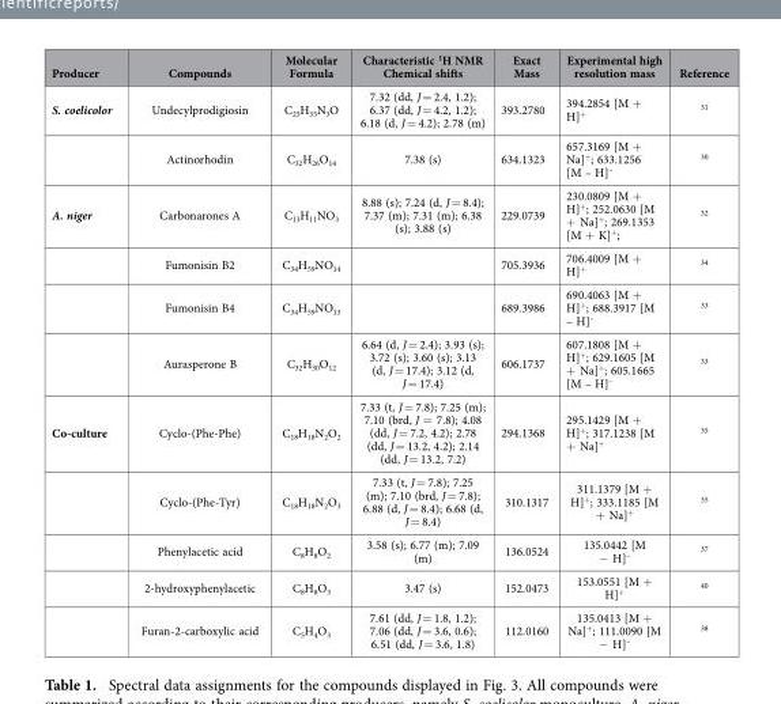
<table><thead><tr><td>Producer</td><td>Compounds</td><td>Molecular Formula</td><td>Characteristic <sup>1</sup>H NMR Chemical shifts</td><td>Exact Mass</td><td>Experimental high resolution mass</td><td>Reference</td></tr></thead><tbody><tr><td rowspan="2">S. coelicolor</td><td>Undecylprodigiosin</td><td>C<sub>25</sub>H<sub>35</sub>N<sub>3</sub>O</td><td>7.32 (dd, J = 2.4, 1.2); 6.37 (dd, J = 4.2, 1.2); 6.18 (d, J = 4.2); 2.78 (m)</td><td>393.2780</td><td>394.2854 [M + H]<sup>+</sup></td><td>31</td></tr><tr><td>Actinorhodin</td><td>C<sub>32</sub>H<sub>26</sub>O<sub>14</sub></td><td>7.38 (s)</td><td>634.1323</td><td>657.3169 [M + Na]<sup>+</sup>; 633.1256 [M – H]<sup>–</sup></td><td>30</td></tr><tr><td rowspan="4">A. niger</td><td>Carbonarones A</td><td>C<sub>13</sub>H<sub>11</sub>NO<sub>3</sub></td><td>8.88 (s); 7.24 (d, J = 8.4); 7.37 (m); 7.31 (m); 6.38 (s); 3.88 (s)</td><td>229.0739</td><td>230.0809 [M + H]<sup>+</sup>; 252.0630 [M + Na]<sup>+</sup>; 269.1353 [M + K]<sup>+</sup>;</td><td>32</td></tr><tr><td>Fumonisin B2</td><td>C<sub>34</sub>H<sub>59</sub>NO<sub>14</sub></td><td></td><td>705.3936</td><td>706.4009 [M + H]<sup>+</sup></td><td>34</td></tr><tr><td>Fumonisin B4</td><td>C<sub>34</sub>H<sub>59</sub>NO<sub>13</sub></td><td></td><td>689.3986</td><td>690.4063 [M + H]<sup>+</sup>; 688.3917 [M – H]<sup>–</sup></td><td>33</td></tr><tr><td>Aurasperone B</td><td>C<sub>32</sub>H<sub>30</sub>O<sub>12</sub></td><td>6.64 (d, J = 2.4); 3.93 (s); 3.72 (s); 3.60 (s); 3.13 (d, J = 17.4); 3.12 (d, J = 17.4)</td><td>606.1737</td><td>607.1808 [M + H]<sup>+</sup>; 629.1605 [M + Na]<sup>+</sup>; 605.1665 [M – H]<sup>–</sup></td><td>33</td></tr><tr><td rowspan="5">Co-culture</td><td>Cyclo-(Phe-Phe)</td><td>C<sub>18</sub>H<sub>18</sub>N<sub>2</sub>O<sub>2</sub></td><td>7.33 (t, J = 7.8); 7.25 (m); 7.10 (brd, J = 7.8); 4.08 (dd, J = 7.2, 4.2); 2.78 (dd, J = 13.2, 4.2); 2.14 (dd, J = 13.2, 7.2)</td><td>294.1368</td><td>295.1429 [M + H]<sup>+</sup>; 317.1238 [M + Na]<sup>+</sup></td><td>35</td></tr><tr><td>Cyclo-(Phe-Tyr)</td><td>C<sub>18</sub>H<sub>18</sub>N<sub>2</sub>O<sub>3</sub></td><td>7.33 (t, J = 7.8); 7.25 (m); 7.10 (brd, J = 7.8); 6.88 (d, J = 8.4); 6.68 (d, J = 8.4)</td><td>310.1317</td><td>311.1379 [M + H]<sup>+</sup>; 333.1185 [M + Na]<sup>+</sup></td><td>35</td></tr><tr><td>Phenylacetic acid</td><td>C<sub>8</sub>H<sub>8</sub>O<sub>2</sub></td><td>3.58 (s); 6.77 (m); 7.09 (m)</td><td>136.0524</td><td>135.0442 [M − H]<sup>–</sup></td><td>37</td></tr><tr><td>2-hydroxyphenylacetic</td><td>C<sub>8</sub>H<sub>8</sub>O<sub>3</sub></td><td>3.47 (s)</td><td>152.0473</td><td>153.0551 [M + H]<sup>+</sup></td><td>40</td></tr><tr><td>Furan-2-carboxylic acid</td><td>C<sub>5</sub>H<sub>4</sub>O<sub>3</sub></td><td>7.61 (dd, J = 1.8, 1.2); 7.06 (dd, J = 3.6, 0.6); 6.51 (dd, J = 3.6, 1.8)</td><td>112.0160</td><td>135.0413 [M + Na]<sup>+</sup>; 111.0090 [M − H]<sup>–</sup></td><td>38</td></tr></tbody></table>